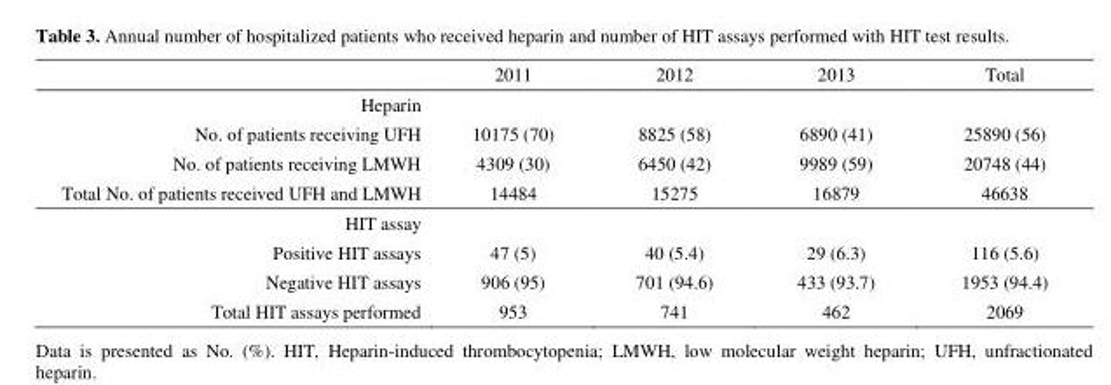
<table><thead><tr><td></td><td>2011</td><td>2012</td><td>2013</td><td>Total</td></tr></thead><tbody><tr><td colspan="5">Heparin</td></tr><tr><td>No. of patients receiving UFH</td><td>10175 (70)</td><td>8825 (58)</td><td>6890 (41)</td><td>25890 (56)</td></tr><tr><td>No. of patients receiving LMWH</td><td>4309 (30)</td><td>6450 (42)</td><td>9989 (59)</td><td>20748 (44)</td></tr><tr><td>Total No. of patients received UFH and LMWH</td><td>14484</td><td>15275</td><td>16879</td><td>46638</td></tr><tr><td colspan="5">HIT assay</td></tr><tr><td>Positive HIT assays</td><td>47 (5)</td><td>40 (5.4)</td><td>29 (6.3)</td><td>116 (5.6)</td></tr><tr><td>Negative HIT assays</td><td>906 (95)</td><td>701 (94.6)</td><td>433 (93.7)</td><td>1953 (94.4)</td></tr><tr><td>Total HIT assays performed</td><td>953</td><td>741</td><td>462</td><td>2069</td></tr></tbody></table>